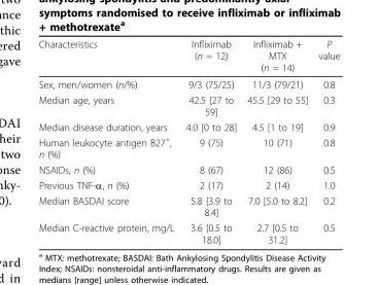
<table><thead><tr><td>Characteristics</td><td>Infliximab (n = 12)</td><td>Infliximab + MTX (n = 14)</td><td>P value</td></tr></thead><tbody><tr><td>Sex, men/women (n/%)</td><td>9/3 (75/25)</td><td>11/3 (79/21)</td><td>0.8</td></tr><tr><td>Median age, years</td><td>42.5 [27 to 59]</td><td>45.5 [29 to 55]</td><td>0.3</td></tr><tr><td>Median disease duration, years</td><td>4.0 [0 to 28]</td><td>4.5 [1 to 19]</td><td>0.9</td></tr><tr><td>Human leukocyte antigen B27<sup>+</sup>, n (%)</td><td>9 (75)</td><td>10 (71)</td><td>0.8</td></tr><tr><td>NSAIDs, n (%)</td><td>8 (67)</td><td>12 (86)</td><td>0.5</td></tr><tr><td>Previous TNF-α, n (%)</td><td>2 (17)</td><td>2 (14)</td><td>1.0</td></tr><tr><td>Median BASDAI score</td><td>5.8 [3.9 to 8.4]</td><td>7.0 [5.0 to 8.2]</td><td>0.2</td></tr><tr><td>Median C-reactive protein, mg/L</td><td>3.6 [0.5 to 18.0]</td><td>2.7 [0.5 to 31.2]</td><td>0.5</td></tr></tbody></table>